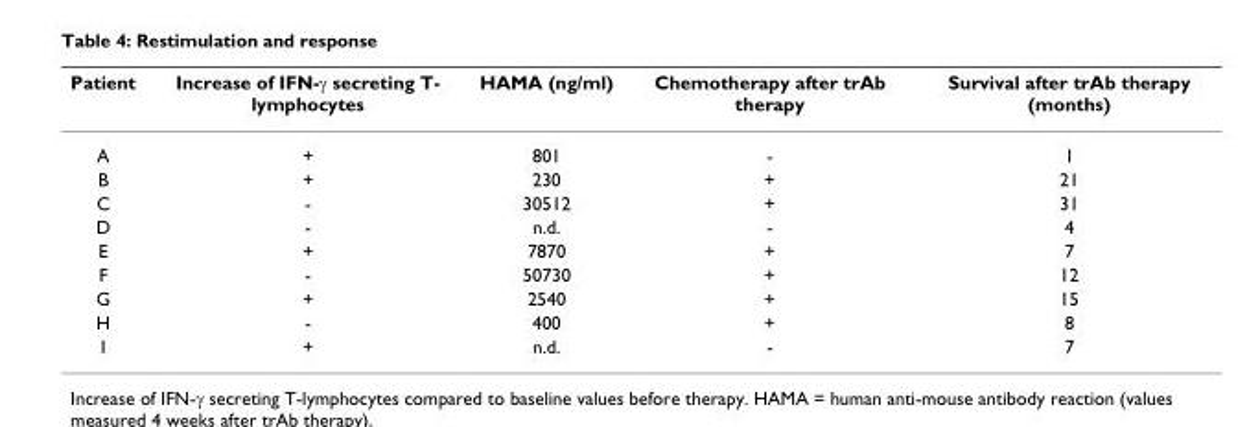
<table><thead><tr><td>Patient</td><td>Increase of IFN-γ secreting T- lymphocytes</td><td>HAMA (ng/ml)</td><td>Chemotherapy after trAb therapy</td><td>Survival after trAb therapy (months)</td></tr></thead><tbody><tr><td>A</td><td>+</td><td>801</td><td>-</td><td>1</td></tr><tr><td>B</td><td>+</td><td>230</td><td>+</td><td>21</td></tr><tr><td>C</td><td>-</td><td>30512</td><td>+</td><td>31</td></tr><tr><td>D</td><td>-</td><td>n.d.</td><td>-</td><td>4</td></tr><tr><td>E</td><td>+</td><td>7870</td><td>+</td><td>7</td></tr><tr><td>F</td><td>-</td><td>50730</td><td>+</td><td>12</td></tr><tr><td>G</td><td>+</td><td>2540</td><td>+</td><td>15</td></tr><tr><td>H</td><td>-</td><td>400</td><td>+</td><td>8</td></tr><tr><td>I</td><td>+</td><td>n.d.</td><td>-</td><td>7</td></tr></tbody></table>